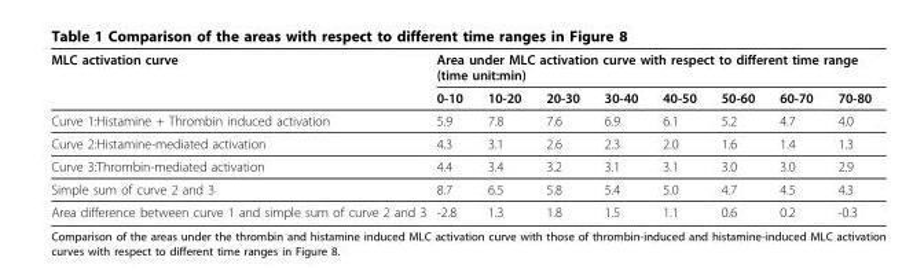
<table><thead><tr><td rowspan="2">MLC activation curve</td><td colspan="8">Area under MLC activation curve with respect to different time range (time unit:min)</td></tr><tr><td>0-10</td><td>10-20</td><td>20-30</td><td>30-40</td><td>40-50</td><td>50-60</td><td>60-70</td><td>70-80</td></tr></thead><tbody><tr><td>Curve 1:Histamine + Thrombin induced activation</td><td>5.9</td><td>7.8</td><td>7.6</td><td>6.9</td><td>6.1</td><td>5.2</td><td>4.7</td><td>4.0</td></tr><tr><td>Curve 2:Histamine-mediated activation</td><td>4.3</td><td>3.1</td><td>2.6</td><td>2.3</td><td>2.0</td><td>1.6</td><td>1.4</td><td>1.3</td></tr><tr><td>Curve 3:Thrombin-mediated activation</td><td>4.4</td><td>3.4</td><td>3.2</td><td>3.1</td><td>3.1</td><td>3.0</td><td>3.0</td><td>2.9</td></tr><tr><td>Simple sum of curve 2 and 3</td><td>8.7</td><td>6.5</td><td>5.8</td><td>5.4</td><td>5.0</td><td>4.7</td><td>4.5</td><td>4.3</td></tr><tr><td>Area difference between curve 1 and simple sum of curve 2 and 3</td><td>-2.8</td><td>1.3</td><td>1.8</td><td>1.5</td><td>1.1</td><td>0.6</td><td>0.2</td><td>-0.3</td></tr></tbody></table>